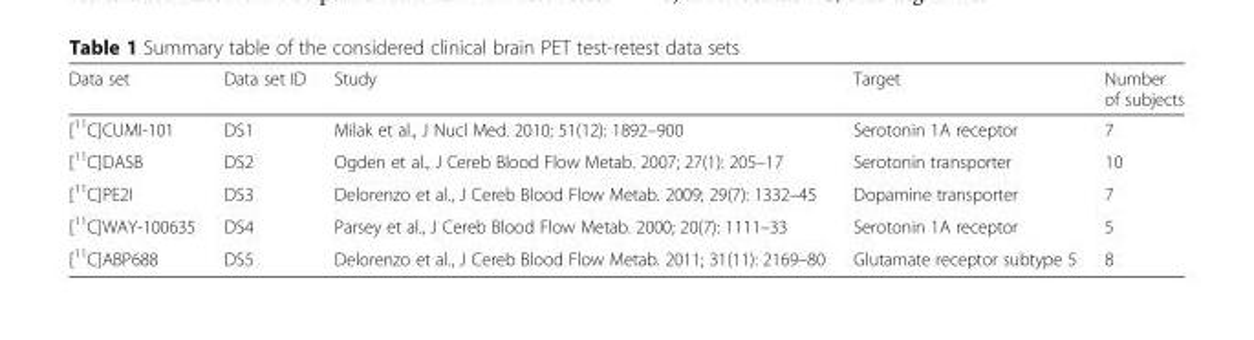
<table><thead><tr><td>Data set</td><td>Data set ID</td><td>Study</td><td>Target</td><td>Number of subjects</td></tr></thead><tbody><tr><td>[<sup>11</sup>C]CUMI-101</td><td>DS1</td><td>Milak et al., J Nucl Med. 2010; 51(12): 1892–900</td><td>Serotonin 1A receptor</td><td>7</td></tr><tr><td>[<sup>11</sup>C]DASB</td><td>DS2</td><td>Ogden et al., J Cereb Blood Flow Metab. 2007; 27(1): 205–17</td><td>Serotonin transporter</td><td>10</td></tr><tr><td>[<sup>11</sup>C]PE2I</td><td>DS3</td><td>Delorenzo et al., J Cereb Blood Flow Metab. 2009; 29(7): 1332–45</td><td>Dopamine transporter</td><td>7</td></tr><tr><td>[<sup>11</sup>C]WAY-100635</td><td>DS4</td><td>Parsey et al., J Cereb Blood Flow Metab. 2000; 20(7): 1111–33</td><td>Serotonin 1A receptor</td><td>5</td></tr><tr><td>[<sup>11</sup>C]ABP688</td><td>DS5</td><td>Delorenzo et al., J Cereb Blood Flow Metab. 2011; 31(11): 2169–80</td><td>Glutamate receptor subtype 5</td><td>8</td></tr></tbody></table>